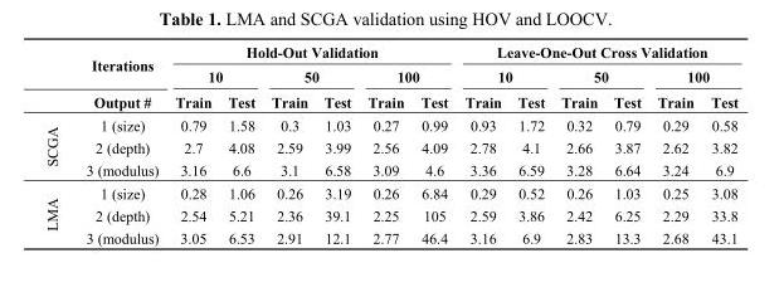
<table><thead><tr><td rowspan="3"></td><td rowspan="3">Iterations Output #</td><td colspan="6">Hold-Out Validation</td><td colspan="6">Leave-One-Out Cross Validation</td></tr><tr><td colspan="2">10</td><td colspan="2">50</td><td colspan="2">100</td><td colspan="2">10</td><td colspan="2">50</td><td colspan="2">100</td></tr><tr><td>Train</td><td>Test</td><td>Train</td><td>Test</td><td>Train</td><td>Test</td><td>Train</td><td>Test</td><td>Train</td><td>Test</td><td>Train</td><td>Test</td></tr></thead><tbody><tr><td rowspan="3">SCGA</td><td>1 (size)</td><td>0.79</td><td>1.58</td><td>0.3</td><td>1.03</td><td>0.27</td><td>0.99</td><td>0.93</td><td>1.72</td><td>0.32</td><td>0.79</td><td>0.29</td><td>0.58</td></tr><tr><td>2 (depth)</td><td>2.7</td><td>4.08</td><td>2.59</td><td>3.99</td><td>2.56</td><td>4.09</td><td>2.78</td><td>4.1</td><td>2.66</td><td>3.87</td><td>2.62</td><td>3.82</td></tr><tr><td>3 (modulus)</td><td>3.16</td><td>6.6</td><td>3.1</td><td>6.58</td><td>3.09</td><td>4.6</td><td>3.36</td><td>6.59</td><td>3.28</td><td>6.64</td><td>3.24</td><td>6.9</td></tr><tr><td rowspan="3">LMA</td><td>1 (size)</td><td>0.28</td><td>1.06</td><td>0.26</td><td>3.19</td><td>0.26</td><td>6.84</td><td>0.29</td><td>0.52</td><td>0.26</td><td>1.03</td><td>0.25</td><td>3.08</td></tr><tr><td>2 (depth)</td><td>2.54</td><td>5.21</td><td>2.36</td><td>39.1</td><td>2.25</td><td>105</td><td>2.59</td><td>3.86</td><td>2.42</td><td>6.25</td><td>2.29</td><td>33.8</td></tr><tr><td>3 (modulus)</td><td>3.05</td><td>6.53</td><td>2.91</td><td>12.1</td><td>2.77</td><td>46.4</td><td>3.16</td><td>6.9</td><td>2.83</td><td>13.3</td><td>2.68</td><td>43.1</td></tr></tbody></table>